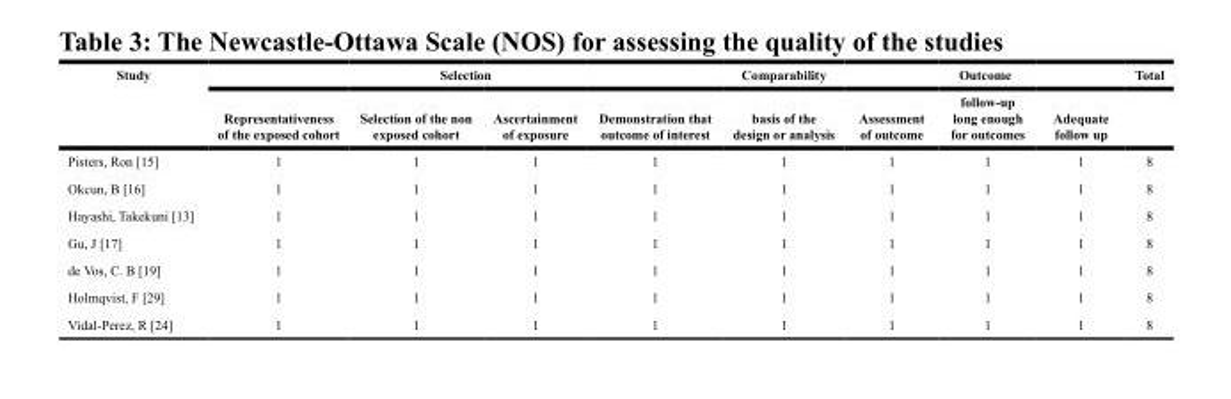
<table><thead><tr><td rowspan="2">Study</td><td colspan="4">Selection</td><td rowspan="2">Comparability basis of the design or analysis</td><td colspan="3">Outcome</td><td rowspan="2">Total</td></tr><tr><td>Representativeness of the exposed cohort</td><td>Selection of the non exposed cohort</td><td>Ascertainment of exposure</td><td>Demonstration that outcome of interest</td><td>Assessment of outcome</td><td>follow-up long enough for outcomes</td><td>Adequate follow up</td></tr></thead><tbody><tr><td>Pisters, Ron [15]</td><td>1</td><td>1</td><td>1</td><td>1</td><td>1</td><td>1</td><td>1</td><td>1</td><td>8</td></tr><tr><td>Okcun, B [16]</td><td>1</td><td>1</td><td>1</td><td>1</td><td>1</td><td>1</td><td>1</td><td>1</td><td>8</td></tr><tr><td>Hayashi, Takekuni [13]</td><td>1</td><td>1</td><td>1</td><td>1</td><td>1</td><td>1</td><td>1</td><td>1</td><td>8</td></tr><tr><td>Gu, J [17]</td><td>1</td><td>1</td><td>1</td><td>1</td><td>1</td><td>1</td><td>1</td><td>1</td><td>8</td></tr><tr><td>de Vos, C. B [19]</td><td>1</td><td>1</td><td>1</td><td>1</td><td>1</td><td>1</td><td>1</td><td>1</td><td>8</td></tr><tr><td>Holmqvist, F [29]</td><td>1</td><td>1</td><td>1</td><td>1</td><td>1</td><td>1</td><td>1</td><td>1</td><td>8</td></tr><tr><td>Vidal-Perez, R [24]</td><td>1</td><td>1</td><td>1</td><td>1</td><td>1</td><td>1</td><td>1</td><td>1</td><td>8</td></tr></tbody></table>